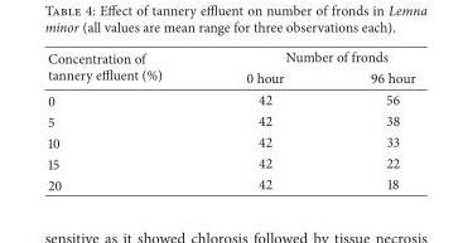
<table><thead><tr><td rowspan="2">Concentration of tannery effluent (%)</td><td colspan="2">Number of fronds</td></tr><tr><td>0 hour</td><td>96 hour</td></tr></thead><tbody><tr><td>0</td><td>42</td><td>56</td></tr><tr><td>5</td><td>42</td><td>38</td></tr><tr><td>10</td><td>42</td><td>33</td></tr><tr><td>15</td><td>42</td><td>22</td></tr><tr><td>20</td><td>42</td><td>18</td></tr></tbody></table>